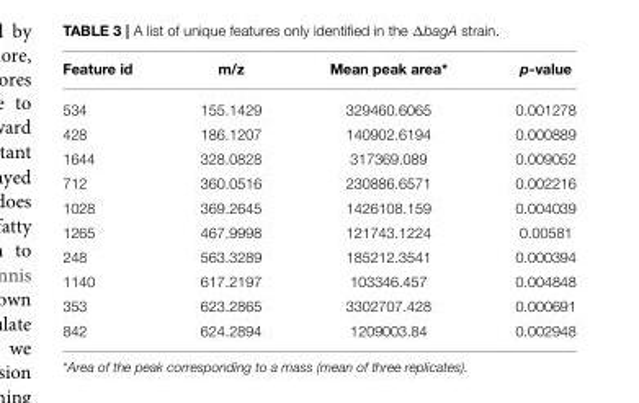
<table><thead><tr><td>Feature id</td><td>m/z</td><td>Mean peak area*</td><td>p-value</td></tr></thead><tbody><tr><td>534</td><td>155.1429</td><td>329460.6065</td><td>0.001278</td></tr><tr><td>428</td><td>186.1207</td><td>140902.6194</td><td>0.000889</td></tr><tr><td>1644</td><td>328.0828</td><td>317369.089</td><td>0.009052</td></tr><tr><td>712</td><td>360.0516</td><td>230886.6571</td><td>0.002216</td></tr><tr><td>1028</td><td>369.2645</td><td>1426108.159</td><td>0.004039</td></tr><tr><td>1265</td><td>467.9998</td><td>121743.1224</td><td>0.00581</td></tr><tr><td>248</td><td>563.3289</td><td>185212.3541</td><td>0.000394</td></tr><tr><td>1140</td><td>617.2197</td><td>103346.457</td><td>0.004848</td></tr><tr><td>353</td><td>623.2865</td><td>3302707.428</td><td>0.000691</td></tr><tr><td>842</td><td>624.2894</td><td>1209003.84</td><td>0.002948</td></tr></tbody></table>